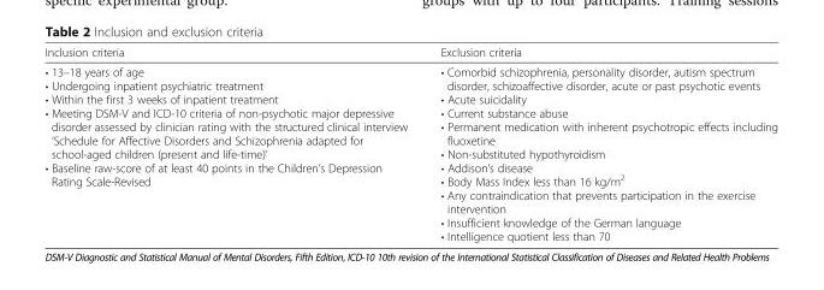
<table><thead><tr><td>Inclusion criteria</td><td>Exclusion criteria</td></tr></thead><tbody><tr><td>• 13–18 years of age • Undergoing inpatient psychiatric treatment • Within the first 3 weeks of inpatient treatment • Meeting DSM-V and ICD-10 criteria of non-psychotic major depressive disorder assessed by clinician rating with the structured clinical interview ‘Schedule for Affective Disorders and Schizophrenia adapted for school-aged children (present and life-time)’ • Baseline raw-score of at least 40 points in the Children’s Depression Rating Scale-Revised</td><td>• Comorbid schizophrenia, personality disorder, autism spectrum disorder, schizoaffective disorder, acute or past psychotic events • Acute suicidality • Current substance abuse • Permanent medication with inherent psychotropic effects including fluoxetine • Non-substituted hypothyroidism • Addison’s disease • Body Mass Index less than 16 kg/m<sup>2</sup> • Any contraindication that prevents participation in the exercise intervention • Insufficient knowledge of the German language • Intelligence quotient less than 70</td></tr></tbody></table>